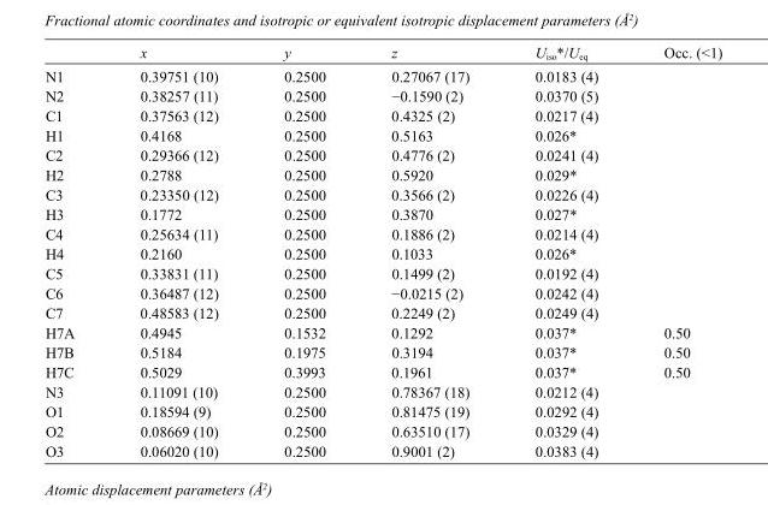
<table><thead><tr><td></td><td>x</td><td>y</td><td>z</td><td>U<sub>iso</sub>*/U<sub>eq</sub></td><td>Occ. (&lt;1)</td></tr></thead><tbody><tr><td>N1</td><td>0.39751 (10)</td><td>0.2500</td><td>0.27067 (17)</td><td>0.0183 (4)</td><td></td></tr><tr><td>N2</td><td>0.38257 (11)</td><td>0.2500</td><td>−0.1590 (2)</td><td>0.0370 (5)</td><td></td></tr><tr><td>C1</td><td>0.37563 (12)</td><td>0.2500</td><td>0.4325 (2)</td><td>0.0217 (4)</td><td></td></tr><tr><td>H1</td><td>0.4168</td><td>0.2500</td><td>0.5163</td><td>0.026*</td><td></td></tr><tr><td>C2</td><td>0.29366 (12)</td><td>0.2500</td><td>0.4776 (2)</td><td>0.0241 (4)</td><td></td></tr><tr><td>H2</td><td>0.2788</td><td>0.2500</td><td>0.5920</td><td>0.029*</td><td></td></tr><tr><td>C3</td><td>0.23350 (12)</td><td>0.2500</td><td>0.3566 (2)</td><td>0.0226 (4)</td><td></td></tr><tr><td>H3</td><td>0.1772</td><td>0.2500</td><td>0.3870</td><td>0.027*</td><td></td></tr><tr><td>C4</td><td>0.25634 (11)</td><td>0.2500</td><td>0.1886 (2)</td><td>0.0214 (4)</td><td></td></tr><tr><td>H4</td><td>0.2160</td><td>0.2500</td><td>0.1033</td><td>0.026*</td><td></td></tr><tr><td>C5</td><td>0.33831 (11)</td><td>0.2500</td><td>0.1499 (2)</td><td>0.0192 (4)</td><td></td></tr><tr><td>C6</td><td>0.36487 (12)</td><td>0.2500</td><td>−0.0215 (2)</td><td>0.0242 (4)</td><td></td></tr><tr><td>C7</td><td>0.48583 (12)</td><td>0.2500</td><td>0.2249 (2)</td><td>0.0249 (4)</td><td></td></tr><tr><td>H7A</td><td>0.4945</td><td>0.1532</td><td>0.1292</td><td>0.037*</td><td>0.50</td></tr><tr><td>H7B</td><td>0.5184</td><td>0.1975</td><td>0.3194</td><td>0.037*</td><td>0.50</td></tr><tr><td>H7C</td><td>0.5029</td><td>0.3993</td><td>0.1961</td><td>0.037*</td><td>0.50</td></tr><tr><td>N3</td><td>0.11091 (10)</td><td>0.2500</td><td>0.78367 (18)</td><td>0.0212 (4)</td><td></td></tr><tr><td>O1</td><td>0.18594 (9)</td><td>0.2500</td><td>0.81475 (19)</td><td>0.0292 (4)</td><td></td></tr><tr><td>O2</td><td>0.08669 (10)</td><td>0.2500</td><td>0.63510 (17)</td><td>0.0329 (4)</td><td></td></tr><tr><td>O3</td><td>0.06020 (10)</td><td>0.2500</td><td>0.9001 (2)</td><td>0.0383 (4)</td><td></td></tr></tbody></table>